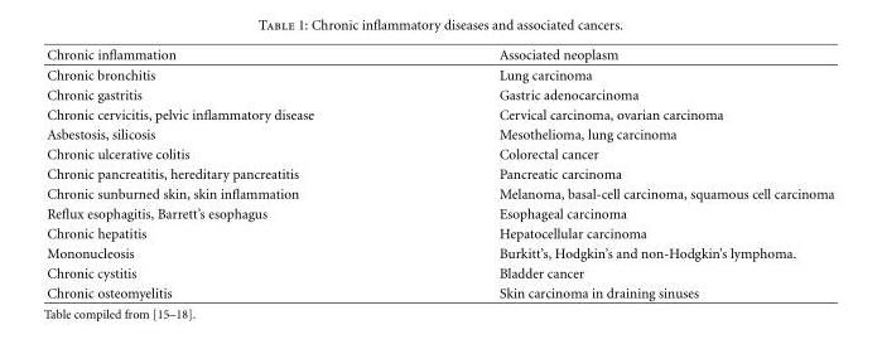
<table><thead><tr><td>Chronic inflammation</td><td>Associated neoplasm</td></tr></thead><tbody><tr><td>Chronic bronchitis</td><td>Lung carcinoma</td></tr><tr><td>Chronic gastritis</td><td>Gastric adenocarcinoma</td></tr><tr><td>Chronic cervicitis, pelvic inflammatory disease</td><td>Cervical carcinoma, ovarian carcinoma</td></tr><tr><td>Asbestosis, silicosis</td><td>Mesothelioma, lung carcinoma</td></tr><tr><td>Chronic ulcerative colitis</td><td>Colorectal cancer</td></tr><tr><td>Chronic pancreatitis, hereditary pancreatitis</td><td>Pancreatic carcinoma</td></tr><tr><td>Chronic sunburned skin, skin inflammation</td><td>Melanoma, basal-cell carcinoma, squamous cell carcinoma</td></tr><tr><td>Reflux esophagitis, Barrett’s esophagus</td><td>Esophageal carcinoma</td></tr><tr><td>Chronic hepatitis</td><td>Hepatocellular carcinoma</td></tr><tr><td>Mononucleosis</td><td>Burkitt’s, Hodgkin’s and non-Hodgkin’s lymphoma.</td></tr><tr><td>Chronic cystitis</td><td>Bladder cancer</td></tr><tr><td>Chronic osteomyelitis</td><td>Skin carcinoma in draining sinuses</td></tr></tbody></table>